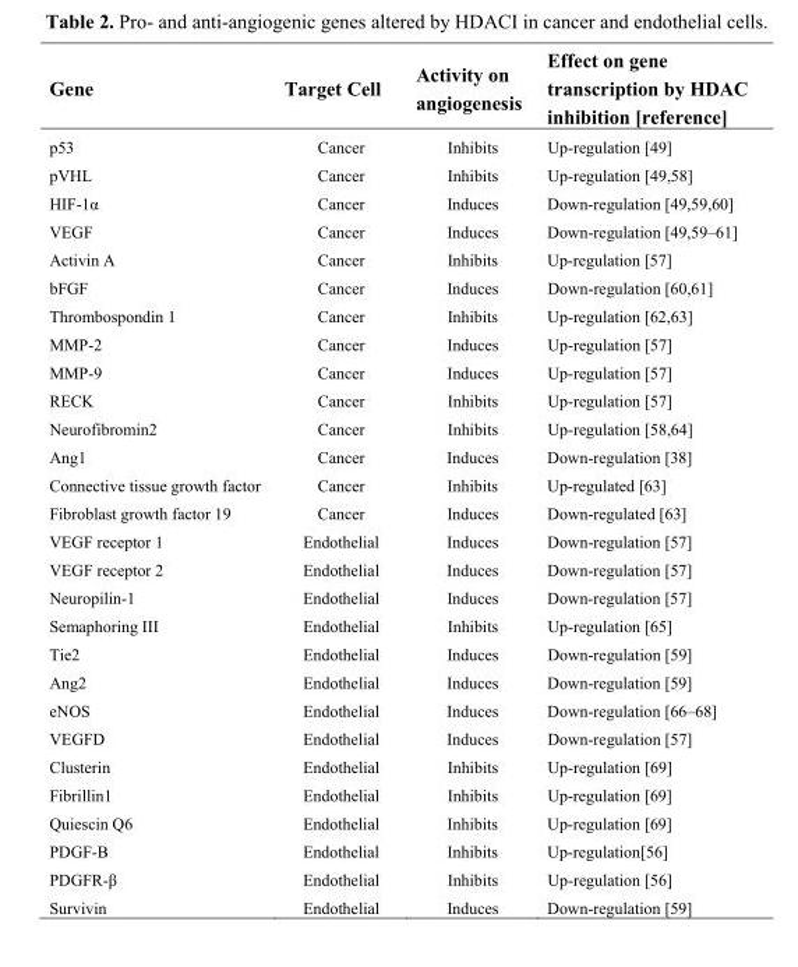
<table><thead><tr><td>Gene</td><td>Target Cell</td><td>Activity on angiogenesis</td><td>Effect on gene transcription by HDAC inhibition [reference]</td></tr></thead><tbody><tr><td>p53</td><td>Cancer</td><td>Inhibits</td><td>Up-regulation [49]</td></tr><tr><td>pVHL</td><td>Cancer</td><td>Inhibits</td><td>Up-regulation [49,58]</td></tr><tr><td>HIF-1α</td><td>Cancer</td><td>Induces</td><td>Down-regulation [49,59,60]</td></tr><tr><td>VEGF</td><td>Cancer</td><td>Induces</td><td>Down-regulation [49,59–61]</td></tr><tr><td>Activin A</td><td>Cancer</td><td>Inhibits</td><td>Up-regulation [57]</td></tr><tr><td>bFGF</td><td>Cancer</td><td>Induces</td><td>Down-regulation [60,61]</td></tr><tr><td>Thrombospondin 1</td><td>Cancer</td><td>Inhibits</td><td>Up-regulation [62,63]</td></tr><tr><td>MMP-2</td><td>Cancer</td><td>Induces</td><td>Up-regulation [57]</td></tr><tr><td>MMP-9</td><td>Cancer</td><td>Induces</td><td>Up-regulation [57]</td></tr><tr><td>RECK</td><td>Cancer</td><td>Inhibits</td><td>Up-regulation [57]</td></tr><tr><td>Neurofibromin2</td><td>Cancer</td><td>Inhibits</td><td>Up-regulation [58,64]</td></tr><tr><td>Ang1</td><td>Cancer</td><td>Induces</td><td>Down-regulation [38]</td></tr><tr><td>Connective tissue growth factor</td><td>Cancer</td><td>Inhibits</td><td>Up-regulated [63]</td></tr><tr><td>Fibroblast growth factor 19</td><td>Cancer</td><td>Induces</td><td>Down-regulated [63]</td></tr><tr><td>VEGF receptor 1</td><td>Endothelial</td><td>Induces</td><td>Down-regulation [57]</td></tr><tr><td>VEGF receptor 2</td><td>Endothelial</td><td>Induces</td><td>Down-regulation [57]</td></tr><tr><td>Neuropilin-1</td><td>Endothelial</td><td>Induces</td><td>Down-regulation [57]</td></tr><tr><td>Semaphoring III</td><td>Endothelial</td><td>Inhibits</td><td>Up-regulation [65]</td></tr><tr><td>Tie2</td><td>Endothelial</td><td>Induces</td><td>Down-regulation [59]</td></tr><tr><td>Ang2</td><td>Endothelial</td><td>Induces</td><td>Down-regulation [59]</td></tr><tr><td>eNOS</td><td>Endothelial</td><td>Induces</td><td>Down-regulation [66–68]</td></tr><tr><td>VEGFD</td><td>Endothelial</td><td>Induces</td><td>Down-regulation [57]</td></tr><tr><td>Clusterin</td><td>Endothelial</td><td>Inhibits</td><td>Up-regulation [69]</td></tr><tr><td>Fibrillin1</td><td>Endothelial</td><td>Inhibits</td><td>Up-regulation [69]</td></tr><tr><td>Quiescin Q6</td><td>Endothelial</td><td>Inhibits</td><td>Up-regulation [69]</td></tr><tr><td>PDGF-B</td><td>Endothelial</td><td>Inhibits</td><td>Up-regulation[56]</td></tr><tr><td>PDGFR-β</td><td>Endothelial</td><td>Inhibits</td><td>Up-regulation [56]</td></tr><tr><td>Survivin</td><td>Endothelial</td><td>Induces</td><td>Down-regulation [59]</td></tr></tbody></table>